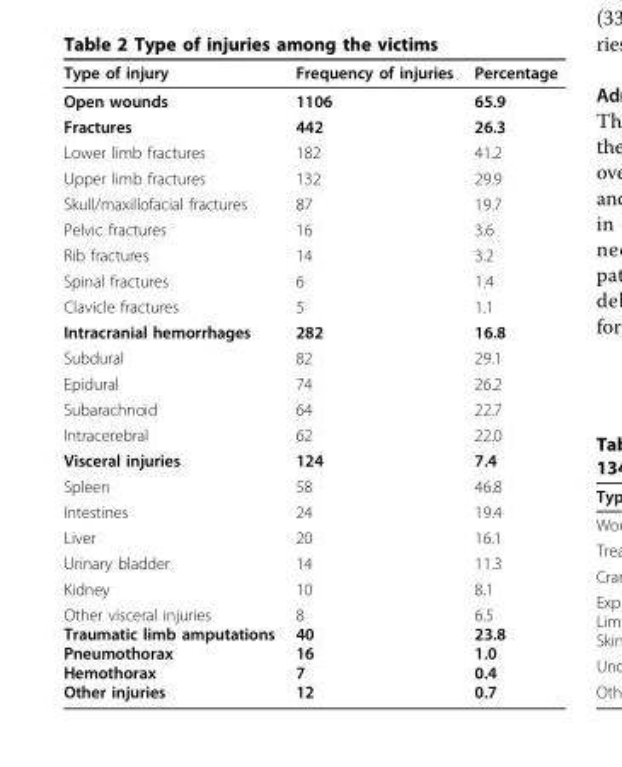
<table><thead><tr><td>Type of injury</td><td>Frequency of injuries</td><td>Percentage</td></tr></thead><tbody><tr><td>Open wounds</td><td>1106</td><td>65.9</td></tr><tr><td>Fractures</td><td>442</td><td>26.3</td></tr><tr><td>Lower limb fractures</td><td>182</td><td>41.2</td></tr><tr><td>Upper limb fractures</td><td>132</td><td>29.9</td></tr><tr><td>Skull/maxillofacial fractures</td><td>87</td><td>19.7</td></tr><tr><td>Pelvic fractures</td><td>16</td><td>3.6</td></tr><tr><td>Rib fractures</td><td>14</td><td>3.2</td></tr><tr><td>Spinal fractures</td><td>6</td><td>1.4</td></tr><tr><td>Clavicle fractures</td><td>5</td><td>1.1</td></tr><tr><td>Intracranial hemorrhages</td><td>282</td><td>16.8</td></tr><tr><td>Subdural</td><td>82</td><td>29.1</td></tr><tr><td>Epidural</td><td>74</td><td>26.2</td></tr><tr><td>Subarachnoid</td><td>64</td><td>22.7</td></tr><tr><td>Intracerebral</td><td>62</td><td>22.0</td></tr><tr><td>Visceral injuries</td><td>124</td><td>7.4</td></tr><tr><td>Spleen</td><td>58</td><td>46.8</td></tr><tr><td>Intestines</td><td>24</td><td>19.4</td></tr><tr><td>Liver</td><td>20</td><td>16.1</td></tr><tr><td>Urinary bladder</td><td>14</td><td>11.3</td></tr><tr><td>Kidney</td><td>10</td><td>8.1</td></tr><tr><td>Other visceral injuries Traumatic limb amputations Pneumothorax Hemothorax Other injuries</td><td>8 40 16 7 12</td><td>6.5 23.8 1.0 0.4 0.7</td></tr></tbody></table>